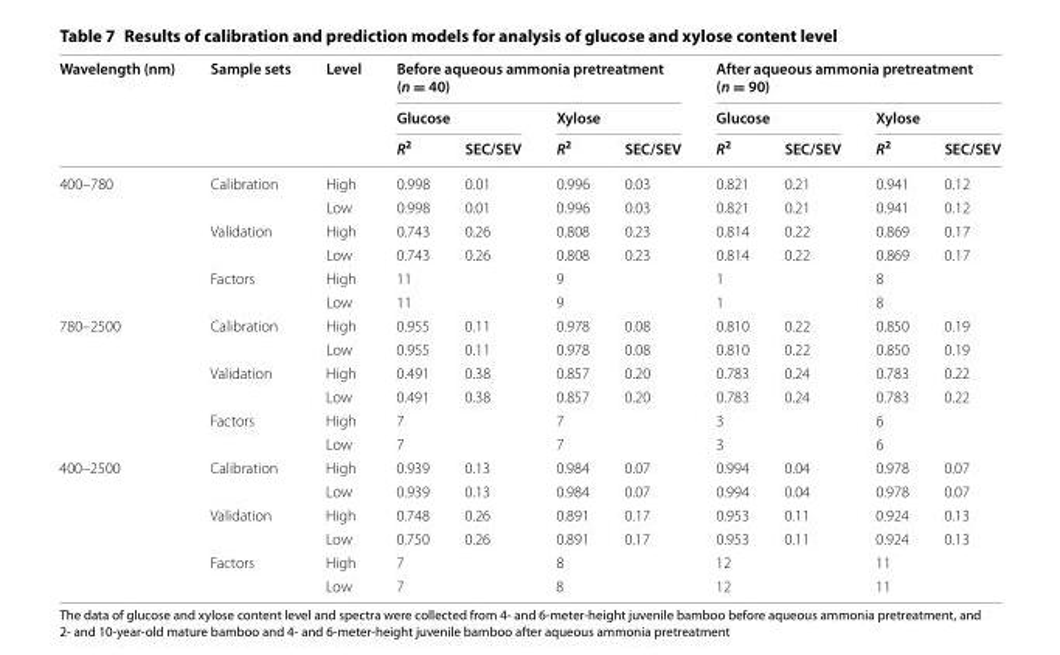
<table><thead><tr><td rowspan="3">Wavelength (nm)</td><td rowspan="3">Sample sets</td><td rowspan="3">Level</td><td colspan="4">Before aqueous ammonia pretreatment (n = 40)</td><td colspan="4">After aqueous ammonia pretreatment (n = 90)</td></tr><tr><td colspan="2">Glucose</td><td colspan="2">Xylose</td><td colspan="2">Glucose</td><td colspan="2">Xylose</td></tr><tr><td>R<sup>2</sup></td><td>SEC/SEV</td><td>R<sup>2</sup></td><td>SEC/SEV</td><td>R<sup>2</sup></td><td>SEC/SEV</td><td>R<sup>2</sup></td><td>SEC/SEV</td></tr></thead><tbody><tr><td rowspan="6">400–780</td><td rowspan="2">Calibration</td><td>High</td><td>0.998</td><td>0.01</td><td>0.996</td><td>0.03</td><td>0.821</td><td>0.21</td><td>0.941</td><td>0.12</td></tr><tr><td>Low</td><td>0.998</td><td>0.01</td><td>0.996</td><td>0.03</td><td>0.821</td><td>0.21</td><td>0.941</td><td>0.12</td></tr><tr><td rowspan="2">Validation</td><td>High</td><td>0.743</td><td>0.26</td><td>0.808</td><td>0.23</td><td>0.814</td><td>0.22</td><td>0.869</td><td>0.17</td></tr><tr><td>Low</td><td>0.743</td><td>0.26</td><td>0.808</td><td>0.23</td><td>0.814</td><td>0.22</td><td>0.869</td><td>0.17</td></tr><tr><td rowspan="2">Factors</td><td>High</td><td colspan="2">11</td><td colspan="2">9</td><td colspan="2">1</td><td colspan="2">8</td></tr><tr><td>Low</td><td colspan="2">11</td><td colspan="2">9</td><td colspan="2">1</td><td colspan="2">8</td></tr><tr><td rowspan="6">780–2500</td><td rowspan="2">Calibration</td><td>High</td><td>0.955</td><td>0.11</td><td>0.978</td><td>0.08</td><td>0.810</td><td>0.22</td><td>0.850</td><td>0.19</td></tr><tr><td>Low</td><td>0.955</td><td>0.11</td><td>0.978</td><td>0.08</td><td>0.810</td><td>0.22</td><td>0.850</td><td>0.19</td></tr><tr><td rowspan="2">Validation</td><td>High</td><td>0.491</td><td>0.38</td><td>0.857</td><td>0.20</td><td>0.783</td><td>0.24</td><td>0.783</td><td>0.22</td></tr><tr><td>Low</td><td>0.491</td><td>0.38</td><td>0.857</td><td>0.20</td><td>0.783</td><td>0.24</td><td>0.783</td><td>0.22</td></tr><tr><td rowspan="2">Factors</td><td>High</td><td colspan="2">7</td><td colspan="2">7</td><td colspan="2">3</td><td colspan="2">6</td></tr><tr><td>Low</td><td colspan="2">7</td><td colspan="2">7</td><td colspan="2">3</td><td colspan="2">6</td></tr><tr><td rowspan="6">400–2500</td><td rowspan="2">Calibration</td><td>High</td><td>0.939</td><td>0.13</td><td>0.984</td><td>0.07</td><td>0.994</td><td>0.04</td><td>0.978</td><td>0.07</td></tr><tr><td>Low</td><td>0.939</td><td>0.13</td><td>0.984</td><td>0.07</td><td>0.994</td><td>0.04</td><td>0.978</td><td>0.07</td></tr><tr><td rowspan="2">Validation</td><td>High</td><td>0.748</td><td>0.26</td><td>0.891</td><td>0.17</td><td>0.953</td><td>0.11</td><td>0.924</td><td>0.13</td></tr><tr><td>Low</td><td>0.750</td><td>0.26</td><td>0.891</td><td>0.17</td><td>0.953</td><td>0.11</td><td>0.924</td><td>0.13</td></tr><tr><td rowspan="2">Factors</td><td>High</td><td colspan="2">7</td><td colspan="2">8</td><td colspan="2">12</td><td colspan="2">11</td></tr><tr><td>Low</td><td colspan="2">7</td><td colspan="2">8</td><td colspan="2">12</td><td colspan="2">11</td></tr></tbody></table>